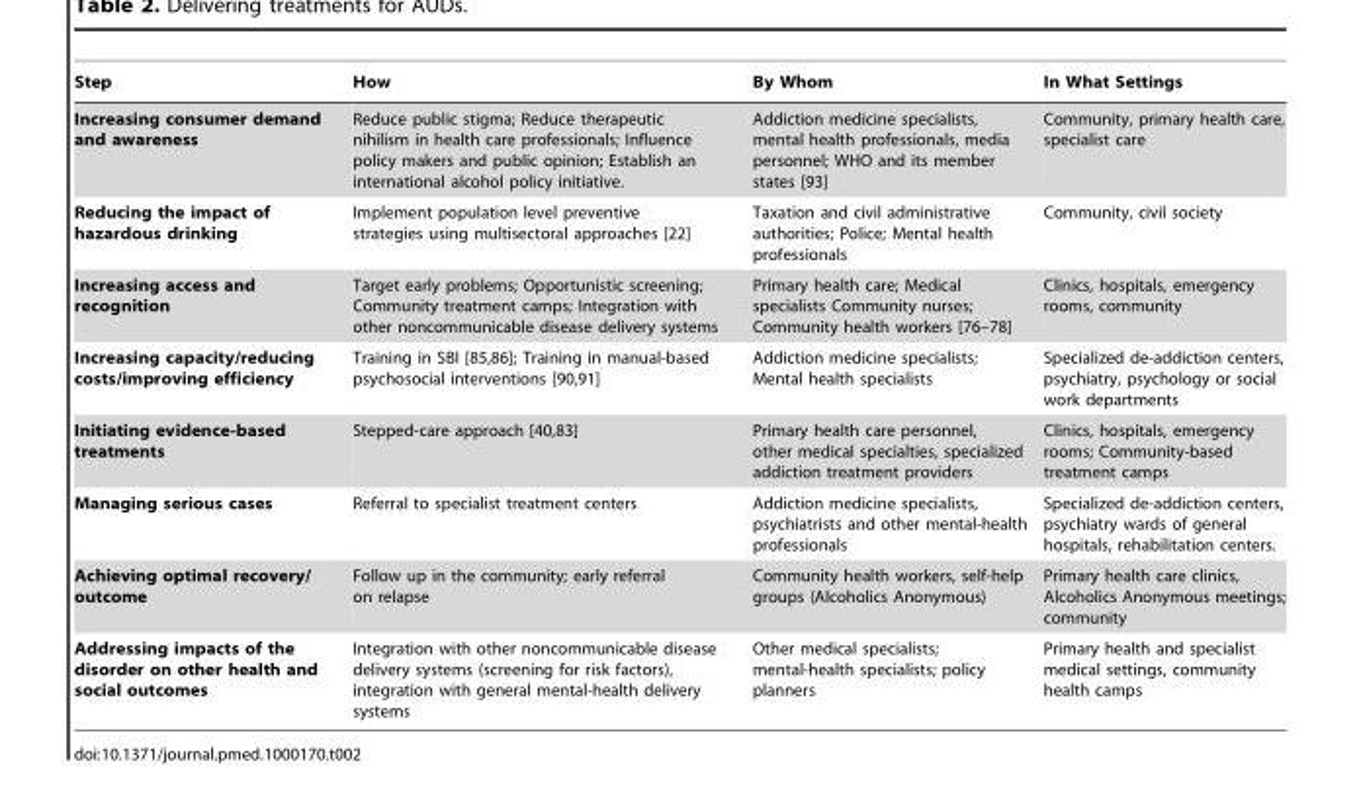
<table><thead><tr><td>Step</td><td>How</td><td>By Whom</td><td>In What Settings</td></tr></thead><tbody><tr><td>Increasing consumer demand and awareness</td><td>Reduce public stigma; Reduce therapeutic nihilism in health care professionals; Influence policy makers and public opinion; Establish an international alcohol policy initiative.</td><td>Addiction medicine specialists, mental health professionals, media personnel; WHO and its member states [93]</td><td>Community, primary health care, specialist care</td></tr><tr><td>Reducing the impact of hazardous drinking</td><td>Implement population level preventive strategies using multisectoral approaches [22]</td><td>Taxation and civil administrative authorities; Police; Mental health professionals</td><td>Community, civil society</td></tr><tr><td>Increasing access and recognition</td><td>Target early problems; Opportunistic screening; Community treatment camps; Integration with other noncommunicable disease delivery systems</td><td>Primary health care; Medical specialists Community nurses; Community health workers [76–78]</td><td>Clinics, hospitals, emergency rooms, community</td></tr><tr><td>Increasing capacity/reducing costs/improving efficiency</td><td>Training in SBI [85,86]; Training in manual-based psychosocial interventions [90,91]</td><td>Addiction medicine specialists; Mental health specialists</td><td>Specialized de-addiction centers, psychiatry, psychology or social work departments</td></tr><tr><td>Initiating evidence-based treatments</td><td>Stepped-care approach [40,83]</td><td>Primary health care personnel, other medical specialties, specialized addiction treatment providers</td><td>Clinics, hospitals, emergency rooms; Community-based treatment camps</td></tr><tr><td>Managing serious cases</td><td>Referral to specialist treatment centers</td><td>Addiction medicine specialists, psychiatrists and other mental-health professionals</td><td>Specialized de-addiction centers, psychiatry wards of general hospitals, rehabilitation centers.</td></tr><tr><td>Achieving optimal recovery/ outcome</td><td>Follow up in the community; early referral on relapse</td><td>Community health workers, self-help groups (Alcoholics Anonymous)</td><td>Primary health care clinics, Alcoholics Anonymous meetings; community</td></tr><tr><td>Addressing impacts of the disorder on other health and social outcomes</td><td>Integration with other noncommunicable disease delivery systems (screening for risk factors), integration with general mental-health delivery systems</td><td>Other medical specialists; mental-health specialists; policy planners</td><td>Primary health and specialist medical settings, community health camps</td></tr></tbody></table>